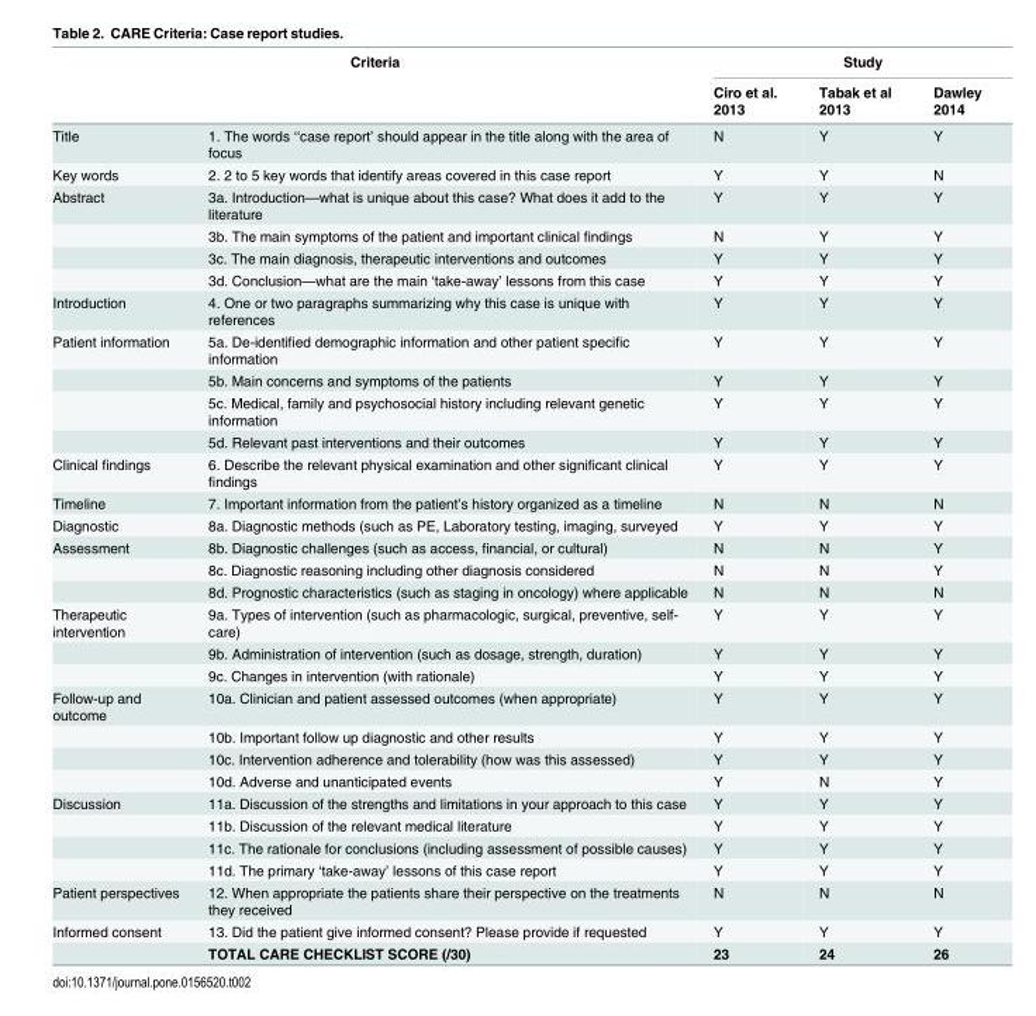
<table><thead><tr><td rowspan="2" colspan="2">Criteria</td><td colspan="3">Study</td></tr><tr><td rowspan="2">Ciro et al. 2013 N</td><td rowspan="2">Tabak et al 2013 Y</td><td rowspan="2">Dawley 2014 Y</td></tr><tr><td>Title</td><td>1. The words ‘‘case report’ should appear in the title along with the area of focus</td></tr></thead><tbody><tr><td>Key words</td><td>2. 2 to 5 key words that identify areas covered in this case report</td><td>Y</td><td>Y</td><td>N</td></tr><tr><td rowspan="4">Abstract</td><td>3a. Introduction—what is unique about this case? What does it add to the literature</td><td>Y</td><td>Y</td><td>Y</td></tr><tr><td>3b. The main symptoms of the patient and important clinical findings</td><td>N</td><td>Y</td><td>Y</td></tr><tr><td>3c. The main diagnosis, therapeutic interventions and outcomes</td><td>Y</td><td>Y</td><td>Y</td></tr><tr><td>3d. Conclusion—what are the main ‘take-away’ lessons from this case</td><td>Y</td><td>Y</td><td>Y</td></tr><tr><td>Introduction</td><td>4. One or two paragraphs summarizing why this case is unique with references</td><td>Y</td><td>Y</td><td>Y</td></tr><tr><td rowspan="4">Patient information</td><td>5a. De-identified demographic information and other patient specific information</td><td>Y</td><td>Y</td><td>Y</td></tr><tr><td>5b. Main concerns and symptoms of the patients</td><td>Y</td><td>Y</td><td>Y</td></tr><tr><td>5c. Medical, family and psychosocial history including relevant genetic information</td><td>Y</td><td>Y</td><td>Y</td></tr><tr><td>5d. Relevant past interventions and their outcomes</td><td>Y</td><td>Y</td><td>Y</td></tr><tr><td>Clinical findings</td><td>6. Describe the relevant physical examination and other significant clinical findings</td><td>Y</td><td>Y</td><td>Y</td></tr><tr><td>Timeline</td><td>7. Important information from the patient’s history organized as a timeline</td><td>N</td><td>N</td><td>N</td></tr><tr><td>Diagnostic</td><td>8a. Diagnostic methods (such as PE, Laboratory testing, imaging, surveyed</td><td>Y</td><td>Y</td><td>Y</td></tr><tr><td rowspan="3">Assessment</td><td>8b. Diagnostic challenges (such as access, financial, or cultural)</td><td>N</td><td>N</td><td>Y</td></tr><tr><td>8c. Diagnostic reasoning including other diagnosis considered</td><td>N</td><td>N</td><td>Y</td></tr><tr><td>8d. Prognostic characteristics (such as staging in oncology) where applicable</td><td>N</td><td>N</td><td>N</td></tr><tr><td rowspan="3">Therapeutic intervention</td><td>9a. Types of intervention (such as pharmacologic, surgical, preventive, self- care)</td><td>Y</td><td>Y</td><td>Y</td></tr><tr><td>9b. Administration of intervention (such as dosage, strength, duration)</td><td>Y</td><td>Y</td><td>Y</td></tr><tr><td>9c. Changes in intervention (with rationale)</td><td>Y</td><td>Y</td><td>Y</td></tr><tr><td rowspan="4">Follow-up and outcome</td><td>10a. Clinician and patient assessed outcomes (when appropriate)</td><td>Y</td><td>Y</td><td>Y</td></tr><tr><td>10b. Important follow up diagnostic and other results</td><td>Y</td><td>Y</td><td>Y</td></tr><tr><td>10c. Intervention adherence and tolerability (how was this assessed)</td><td>Y</td><td>Y</td><td>Y</td></tr><tr><td>10d. Adverse and unanticipated events</td><td>Y</td><td>N</td><td>Y</td></tr><tr><td rowspan="4">Discussion</td><td>11a. Discussion of the strengths and limitations in your approach to this case</td><td>Y</td><td>Y</td><td>Y</td></tr><tr><td>11b. Discussion of the relevant medical literature</td><td>Y</td><td>Y</td><td>Y</td></tr><tr><td>11c. The rationale for conclusions (including assessment of possible causes)</td><td>Y</td><td>Y</td><td>Y</td></tr><tr><td>11d. The primary ‘take-away’ lessons of this case report</td><td>Y</td><td>Y</td><td>Y</td></tr><tr><td>Patient perspectives</td><td>12. When appropriate the patients share their perspective on the treatments they received</td><td>N</td><td>N</td><td>N</td></tr><tr><td rowspan="2">Informed consent</td><td>13. Did the patient give informed consent? Please provide if requested</td><td>Y</td><td>Y</td><td>Y</td></tr><tr><td>TOTAL CARE CHECKLIST SCORE (/30)</td><td>23</td><td>24</td><td>26</td></tr></tbody></table>